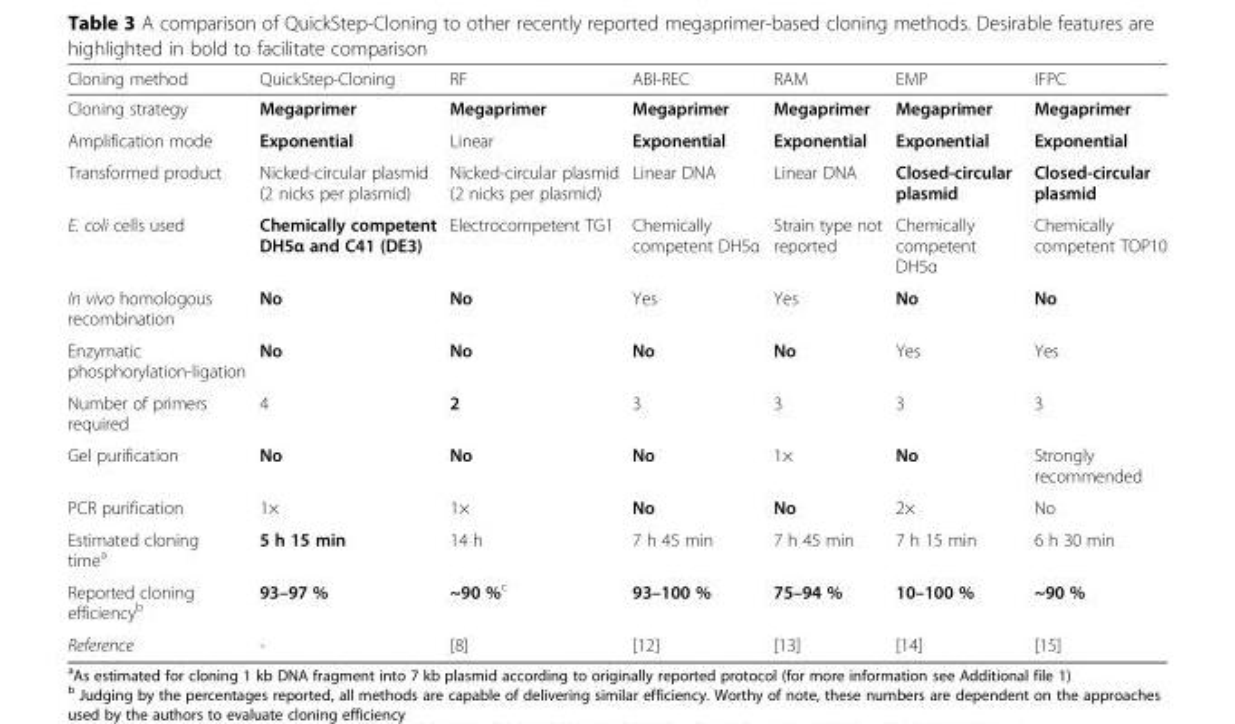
<table><thead><tr><td>Cloning method</td><td>QuickStep-Cloning</td><td>RF</td><td>ABI-REC</td><td>RAM</td><td>EMP</td><td>IFPC</td></tr></thead><tbody><tr><td>Cloning strategy</td><td>Megaprimer</td><td>Megaprimer</td><td>Megaprimer</td><td>Megaprimer</td><td>Megaprimer</td><td>Megaprimer</td></tr><tr><td>Amplification mode</td><td>Exponential</td><td>Linear</td><td>Exponential</td><td>Exponential</td><td>Exponential</td><td>Exponential</td></tr><tr><td>Transformed product</td><td>Nicked-circular plasmid (2 nicks per plasmid)</td><td>Nicked-circular plasmid (2 nicks per plasmid)</td><td>Linear DNA</td><td>Linear DNA</td><td>Closed-circular plasmid</td><td>Closed-circular plasmid</td></tr><tr><td>E. coli cells used</td><td>Chemically competent DH5α and C41 (DE3)</td><td>Electrocompetent TG1</td><td>Chemically competent DH5α</td><td>Strain type not reported</td><td>Chemically competent DH5α</td><td>Chemically competent TOP10</td></tr><tr><td>In vivo homologous recombination</td><td>No</td><td>No</td><td>Yes</td><td>Yes</td><td>No</td><td>No</td></tr><tr><td>Enzymatic phosphorylation-ligation</td><td>No</td><td>No</td><td>No</td><td>No</td><td>Yes</td><td>Yes</td></tr><tr><td>Number of primers required</td><td>4</td><td>2</td><td>3</td><td>3</td><td>3</td><td>3</td></tr><tr><td>Gel purification</td><td>No</td><td>No</td><td>No</td><td>1×</td><td>No</td><td>Strongly recommended</td></tr><tr><td>PCR purification</td><td>1×</td><td>1×</td><td>No</td><td>No</td><td>2×</td><td>No</td></tr><tr><td>Estimated cloning time<sup>a</sup></td><td>5 h 15 min</td><td>14 h</td><td>7 h 45 min</td><td>7 h 45 min</td><td>7 h 15 min</td><td>6 h 30 min</td></tr><tr><td>Reported cloning efficiency<sup>b</sup></td><td>93–97 %</td><td>~90 %<sup>c</sup></td><td>93–100 %</td><td>75–94 %</td><td>10–100 %</td><td>~90 %</td></tr><tr><td>Reference</td><td>-</td><td>[8]</td><td>[12]</td><td>[13]</td><td>[14]</td><td>[15]</td></tr></tbody></table>